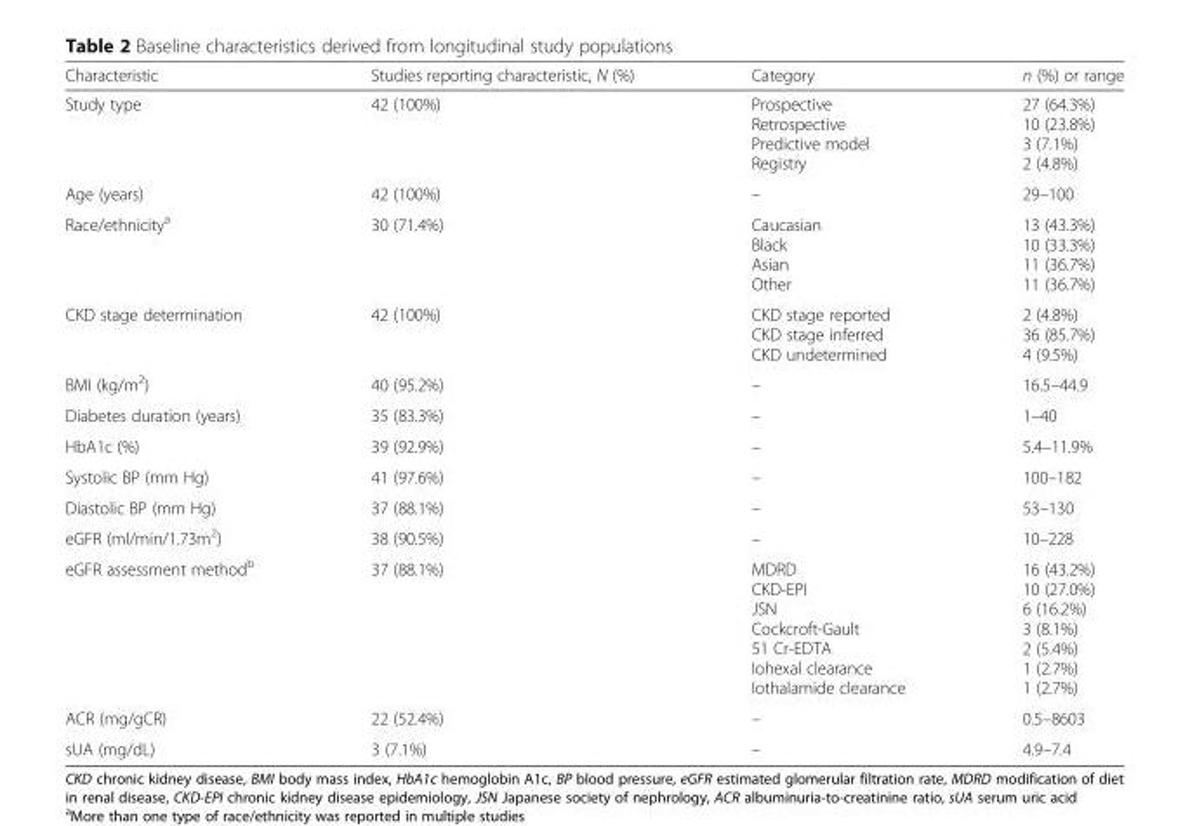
<table><thead><tr><td>Characteristic</td><td>Studies reporting characteristic, N (%)</td><td>Category</td><td>n (%) or range</td></tr></thead><tbody><tr><td>Study type</td><td>42 (100%)</td><td>Prospective Retrospective Predictive model Registry</td><td>27 (64.3%) 10 (23.8%) 3 (7.1%) 2 (4.8%)</td></tr><tr><td>Age (years)</td><td>42 (100%)</td><td>–</td><td>29–100</td></tr><tr><td>Race/ethnicity<sup>a</sup></td><td>30 (71.4%)</td><td>Caucasian Black Asian Other</td><td>13 (43.3%) 10 (33.3%) 11 (36.7%) 11 (36.7%)</td></tr><tr><td>CKD stage determination</td><td>42 (100%)</td><td>CKD stage reported CKD stage inferred CKD undetermined</td><td>2 (4.8%) 36 (85.7%) 4 (9.5%)</td></tr><tr><td>BMI (kg/m<sup>2</sup>)</td><td>40 (95.2%)</td><td>–</td><td>16.5–44.9</td></tr><tr><td>Diabetes duration (years)</td><td>35 (83.3%)</td><td>–</td><td>1–40</td></tr><tr><td>HbA1c (%)</td><td>39 (92.9%)</td><td>–</td><td>5.4–11.9%</td></tr><tr><td>Systolic BP (mm Hg)</td><td>41 (97.6%)</td><td>–</td><td>100–182</td></tr><tr><td>Diastolic BP (mm Hg)</td><td>37 (88.1%)</td><td>–</td><td>53–130</td></tr><tr><td>eGFR (ml/min/1.73m<sup>2</sup>)</td><td>38 (90.5%)</td><td>–</td><td>10–228</td></tr><tr><td>eGFR assessment method<sup>b</sup></td><td>37 (88.1%)</td><td>MDRD CKD-EPI JSN Cockcroft-Gault 51 Cr-EDTA Iohexal clearance Iothalamide clearance</td><td>16 (43.2%) 10 (27.0%) 6 (16.2%) 3 (8.1%) 2 (5.4%) 1 (2.7%) 1 (2.7%)</td></tr><tr><td>ACR (mg/gCR)</td><td>22 (52.4%)</td><td>–</td><td>0.5–8603</td></tr><tr><td>sUA (mg/dL)</td><td>3 (7.1%)</td><td>–</td><td>4.9–7.4</td></tr></tbody></table>